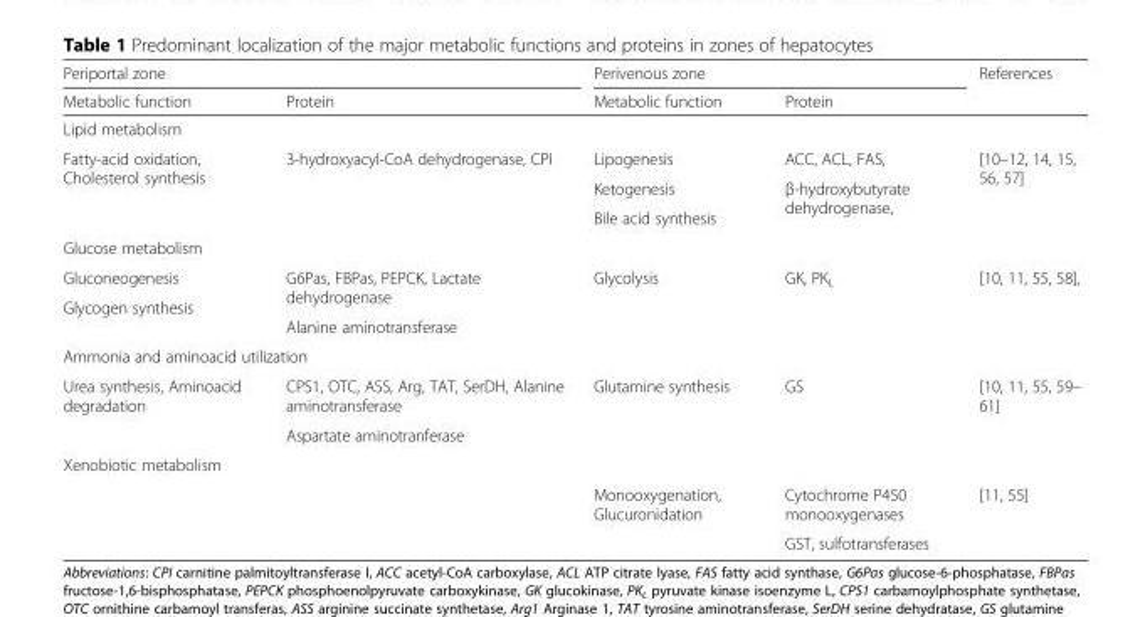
<table><thead><tr><td colspan="2">Periportal zone</td><td colspan="2">Perivenous zone</td><td rowspan="2">References</td></tr><tr><td>Metabolic function</td><td>Protein</td><td>Metabolic function</td><td>Protein</td></tr></thead><tbody><tr><td colspan="5">Lipid metabolism</td></tr><tr><td rowspan="3">Fatty-acid oxidation, Cholesterol synthesis</td><td rowspan="3">3-hydroxyacyl-CoA dehydrogenase, CPI</td><td>Lipogenesis</td><td>ACC, ACL, FAS,</td><td rowspan="3">[10–12, 14, 15, 56, 57]</td></tr><tr><td>Ketogenesis</td><td rowspan="2">β-hydroxybutyrate dehydrogenase,</td></tr><tr><td>Bile acid synthesis</td></tr><tr><td colspan="5">Glucose metabolism</td></tr><tr><td>Gluconeogenesis</td><td rowspan="2">G6Pas, FBPas, PEPCK, Lactate dehydrogenase</td><td rowspan="3">Glycolysis</td><td rowspan="3">GK, PK<sub>L</sub></td><td rowspan="3">[10, 11, 55, 58],</td></tr><tr><td rowspan="2">Glycogen synthesis</td></tr><tr><td>Alanine aminotransferase</td></tr><tr><td colspan="5">Ammonia and aminoacid utilization</td></tr><tr><td rowspan="2">Urea synthesis, Aminoacid degradation</td><td>CPS1, OTC, ASS, Arg, TAT, SerDH, Alanine aminotransferase</td><td rowspan="2">Glutamine synthesis</td><td rowspan="2">GS</td><td rowspan="2">[10, 11, 55, 59– 61]</td></tr><tr><td>Aspartate aminotranferase</td></tr><tr><td colspan="5">Xenobiotic metabolism</td></tr><tr><td rowspan="2"></td><td rowspan="2"></td><td rowspan="2">Monooxygenation, Glucuronidation</td><td>Cytochrome P450 monooxygenases</td><td rowspan="2">[11, 55]</td></tr><tr><td>GST, sulfotransferases</td></tr></tbody></table>